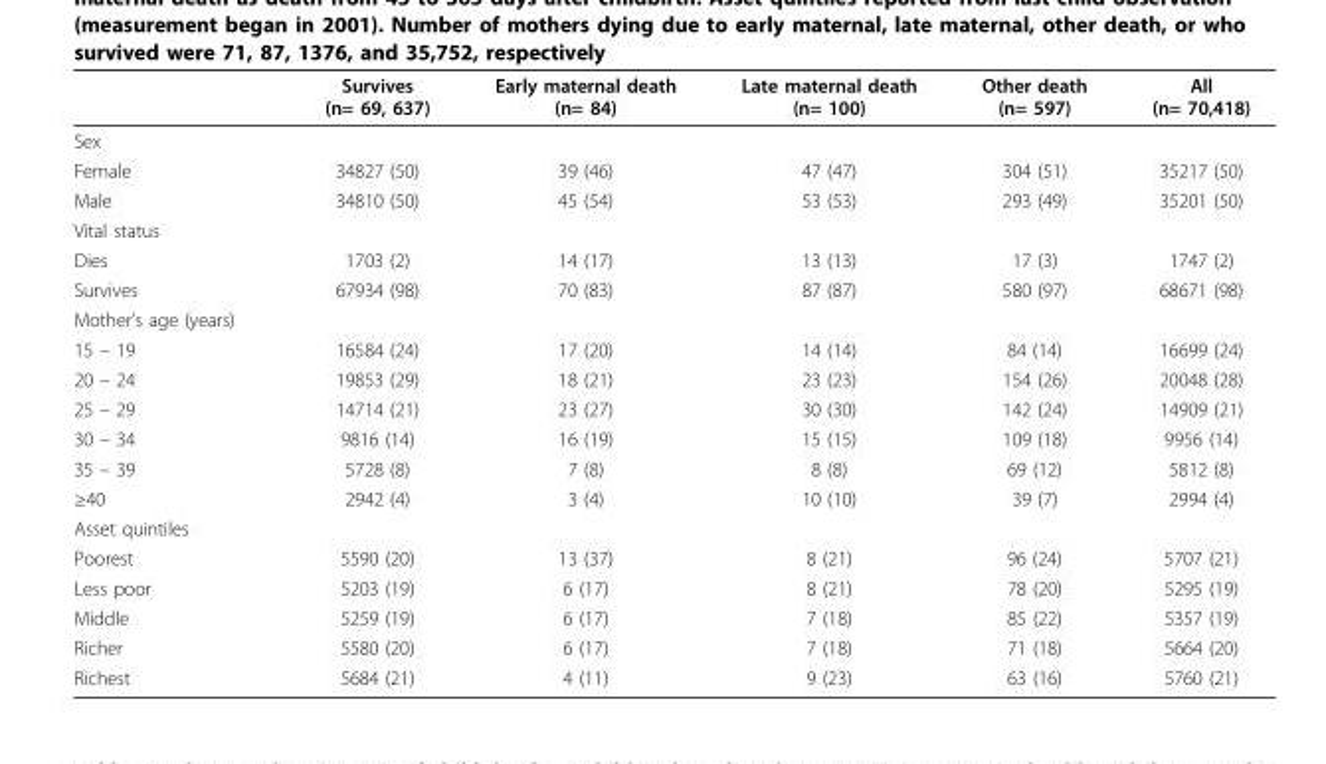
<table><thead><tr><td></td><td>Survives (n= 69, 637)</td><td>Early maternal death (n= 84)</td><td>Late maternal death (n= 100)</td><td>Other death (n= 597)</td><td>All (n= 70,418)</td></tr></thead><tbody><tr><td colspan="6">Sex</td></tr><tr><td>Female</td><td>34827 (50)</td><td>39 (46)</td><td>47 (47)</td><td>304 (51)</td><td>35217 (50)</td></tr><tr><td>Male</td><td>34810 (50)</td><td>45 (54)</td><td>53 (53)</td><td>293 (49)</td><td>35201 (50)</td></tr><tr><td colspan="6">Vital status</td></tr><tr><td>Dies</td><td>1703 (2)</td><td>14 (17)</td><td>13 (13)</td><td>17 (3)</td><td>1747 (2)</td></tr><tr><td>Survives</td><td>67934 (98)</td><td>70 (83)</td><td>87 (87)</td><td>580 (97)</td><td>68671 (98)</td></tr><tr><td colspan="6">Mother’s age (years)</td></tr><tr><td>15 – 19</td><td>16584 (24)</td><td>17 (20)</td><td>14 (14)</td><td>84 (14)</td><td>16699 (24)</td></tr><tr><td>20 – 24</td><td>19853 (29)</td><td>18 (21)</td><td>23 (23)</td><td>154 (26)</td><td>20048 (28)</td></tr><tr><td>25 – 29</td><td>14714 (21)</td><td>23 (27)</td><td>30 (30)</td><td>142 (24)</td><td>14909 (21)</td></tr><tr><td>30 – 34</td><td>9816 (14)</td><td>16 (19)</td><td>15 (15)</td><td>109 (18)</td><td>9956 (14)</td></tr><tr><td>35 – 39</td><td>5728 (8)</td><td>7 (8)</td><td>8 (8)</td><td>69 (12)</td><td>5812 (8)</td></tr><tr><td>≥40</td><td>2942 (4)</td><td>3 (4)</td><td>10 (10)</td><td>39 (7)</td><td>2994 (4)</td></tr><tr><td colspan="6">Asset quintiles</td></tr><tr><td>Poorest</td><td>5590 (20)</td><td>13 (37)</td><td>8 (21)</td><td>96 (24)</td><td>5707 (21)</td></tr><tr><td>Less poor</td><td>5203 (19)</td><td>6 (17)</td><td>8 (21)</td><td>78 (20)</td><td>5295 (19)</td></tr><tr><td>Middle</td><td>5259 (19)</td><td>6 (17)</td><td>7 (18)</td><td>85 (22)</td><td>5357 (19)</td></tr><tr><td>Richer</td><td>5580 (20)</td><td>6 (17)</td><td>7 (18)</td><td>71 (18)</td><td>5664 (20)</td></tr><tr><td>Richest</td><td>5684 (21)</td><td>4 (11)</td><td>9 (23)</td><td>63 (16)</td><td>5760 (21)</td></tr></tbody></table>